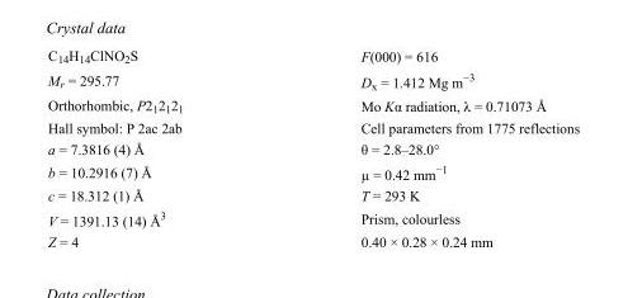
<table><tbody><tr><td>C<sub>14</sub>H<sub>14</sub>ClNO<sub>2</sub>S</td><td>F(000) = 616</td></tr><tr><td>M<sub>r</sub> = 295.77</td><td>D<sub>x</sub> = 1.412 Mg m<sup>−3</sup></td></tr><tr><td>Orthorhombic, P2<sub>1</sub>2<sub>1</sub>2<sub>1</sub></td><td>Mo Kα radiation, λ = 0.71073 Å</td></tr><tr><td>Hall symbol: P 2ac 2ab</td><td>Cell parameters from 1775 reflections</td></tr><tr><td>a = 7.3816 (4) Å</td><td>θ = 2.8–28.0°</td></tr><tr><td>b = 10.2916 (7) Å</td><td>µ = 0.42 mm<sup>−1</sup></td></tr><tr><td>c = 18.312 (1) Å</td><td>T = 293 K</td></tr><tr><td>V = 1391.13 (14) Å<sup>3</sup></td><td>Prism, colourless</td></tr><tr><td>Z = 4</td><td>0.40 × 0.28 × 0.24 mm</td></tr></tbody></table>